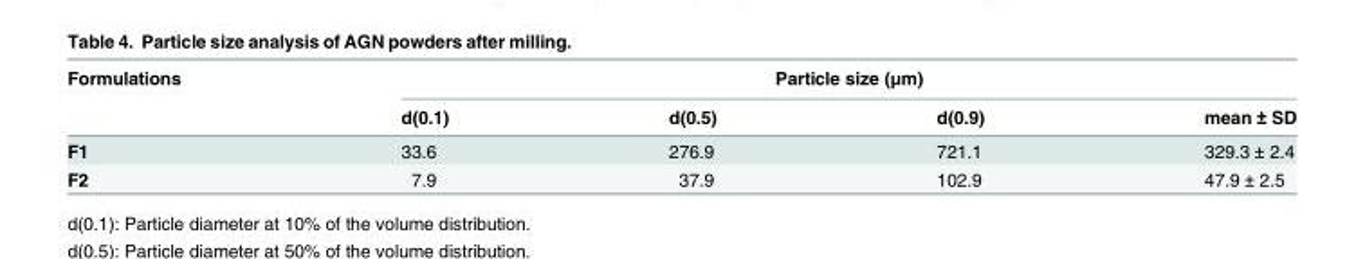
<table><thead><tr><td rowspan="2">Formulations</td><td colspan="4">Particle size (μm)</td></tr><tr><td>d(0.1)</td><td>d(0.5)</td><td>d(0.9)</td><td>mean ± SD</td></tr></thead><tbody><tr><td>F1</td><td>33.6</td><td>276.9</td><td>721.1</td><td>329.3 ± 2.4</td></tr><tr><td>F2</td><td>7.9</td><td>37.9</td><td>102.9</td><td>47.9 ± 2.5</td></tr></tbody></table>